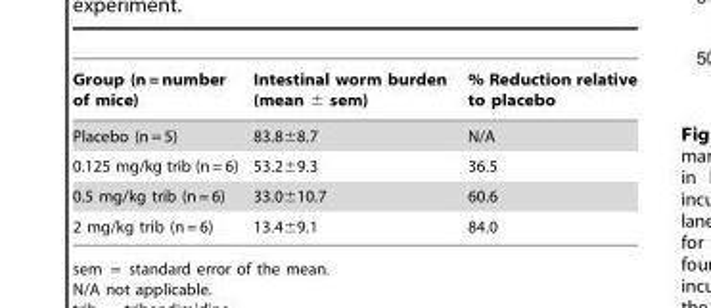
<table><thead><tr><td>Group (n = number of mice)</td><td>Intestinal worm burden (mean ± sem)</td><td>% Reduction relative to placebo</td></tr></thead><tbody><tr><td>Placebo (n = 5)</td><td>83.8±8.7</td><td>N/A</td></tr><tr><td>0.125 mg/kg trib (n = 6)</td><td>53.2±9.3</td><td>36.5</td></tr><tr><td>0.5 mg/kg trib (n = 6)</td><td>33.0±10.7</td><td>60.6</td></tr><tr><td>2 mg/kg trib (n = 6)</td><td>13.4±9.1</td><td>84.0</td></tr></tbody></table>